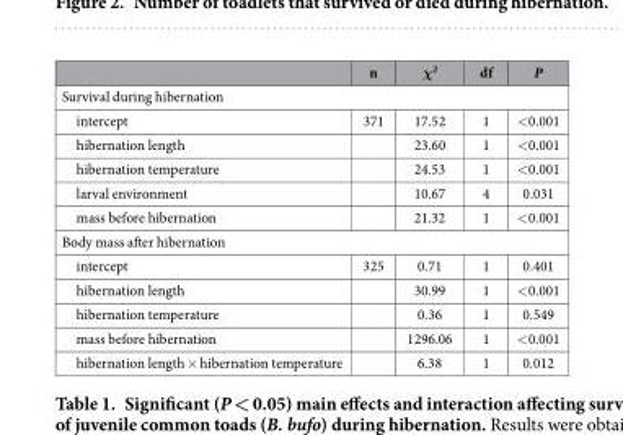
<table><thead><tr><td></td><td>n</td><td>χ<sup>2</sup></td><td>df</td><td>P</td></tr></thead><tbody><tr><td colspan="5">Survival during hibernation</td></tr><tr><td>intercept</td><td>371</td><td>17.52</td><td>1</td><td>&lt; 0.001</td></tr><tr><td>hibernation length</td><td></td><td>23.60</td><td>1</td><td>&lt; 0.001</td></tr><tr><td>hibernation temperature</td><td></td><td>24.53</td><td>1</td><td>&lt; 0.001</td></tr><tr><td>larval environment</td><td></td><td>10.67</td><td>4</td><td>0.031</td></tr><tr><td>mass before hibernation</td><td></td><td>21.32</td><td>1</td><td>&lt; 0.001</td></tr><tr><td colspan="5">Body mass after hibernation</td></tr><tr><td>intercept</td><td>325</td><td>0.71</td><td>1</td><td>0.401</td></tr><tr><td>hibernation length</td><td></td><td>30.99</td><td>1</td><td>&lt; 0.001</td></tr><tr><td>hibernation temperature</td><td></td><td>0.36</td><td>1</td><td>0.549</td></tr><tr><td>mass before hibernation</td><td></td><td>1296.06</td><td>1</td><td>&lt; 0.001</td></tr><tr><td>hibernation length × hibernation temperature</td><td></td><td>6.38</td><td>1</td><td>0.012</td></tr></tbody></table>